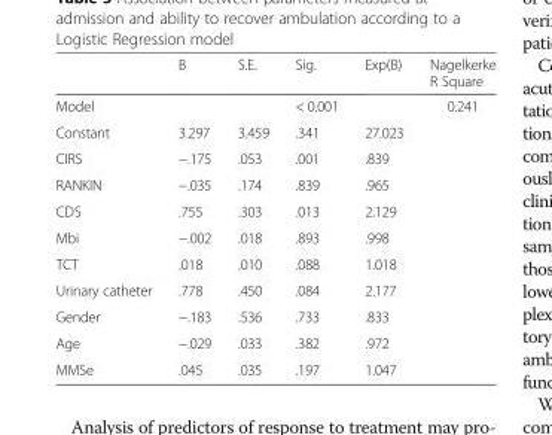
<table><thead><tr><td></td><td>B</td><td>S.E.</td><td>Sig.</td><td>Exp(B)</td><td>Nagelkerke R Square</td></tr></thead><tbody><tr><td>Model</td><td></td><td></td><td>&lt; 0.001</td><td></td><td>0.241</td></tr><tr><td>Constant</td><td>3.297</td><td>3.459</td><td>.341</td><td>27.023</td><td></td></tr><tr><td>CIRS</td><td>−.175</td><td>.053</td><td>.001</td><td>.839</td><td></td></tr><tr><td>RANKIN</td><td>−.035</td><td>.174</td><td>.839</td><td>.965</td><td></td></tr><tr><td>CDS</td><td>.755</td><td>.303</td><td>.013</td><td>2.129</td><td></td></tr><tr><td>Mbi</td><td>−.002</td><td>.018</td><td>.893</td><td>.998</td><td></td></tr><tr><td>TCT</td><td>.018</td><td>.010</td><td>.088</td><td>1.018</td><td></td></tr><tr><td>Urinary catheter</td><td>.778</td><td>.450</td><td>.084</td><td>2.177</td><td></td></tr><tr><td>Gender</td><td>−.183</td><td>.536</td><td>.733</td><td>.833</td><td></td></tr><tr><td>Age</td><td>−.029</td><td>.033</td><td>.382</td><td>.972</td><td></td></tr><tr><td>MMSe</td><td>.045</td><td>.035</td><td>.197</td><td>1.047</td><td></td></tr></tbody></table>